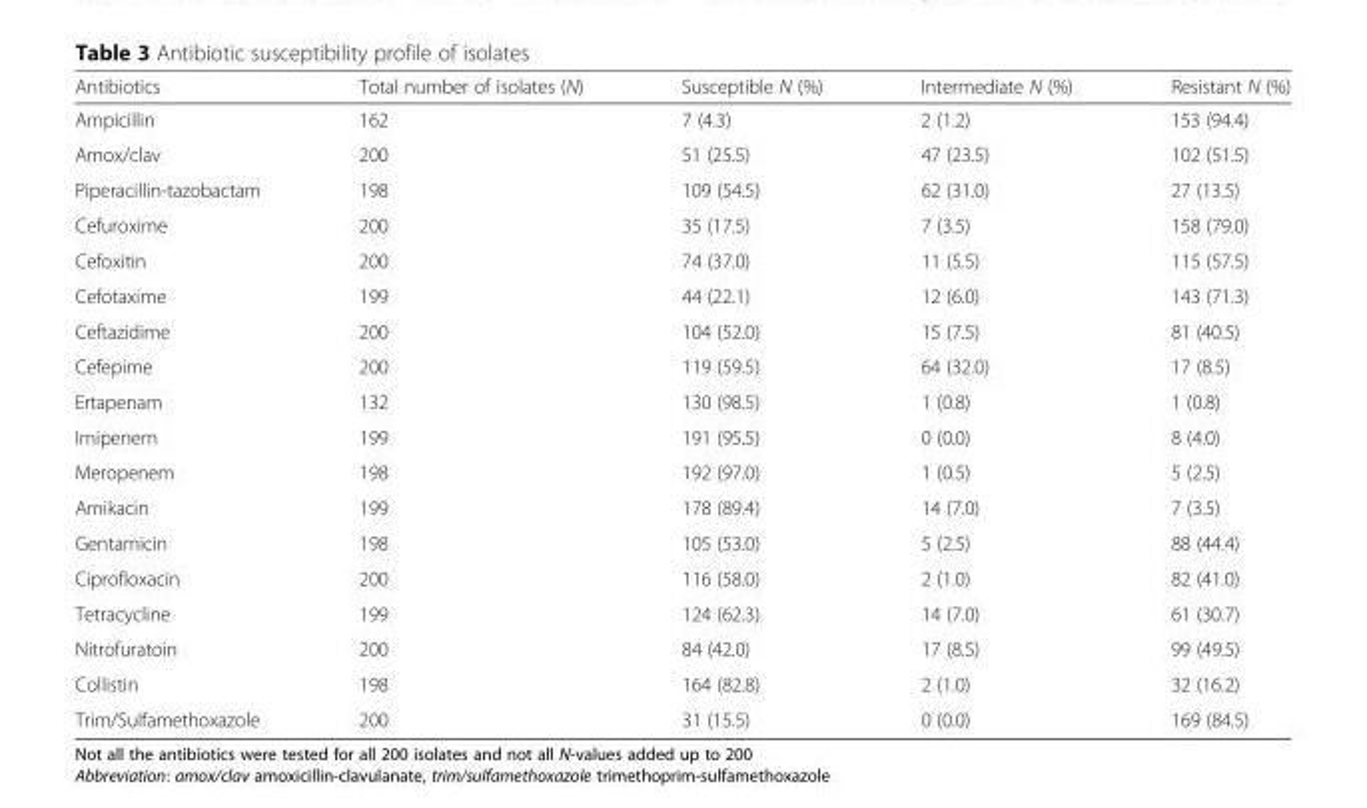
<table><thead><tr><td>Antibiotics</td><td>Total number of isolates (N)</td><td>Susceptible N (%)</td><td>Intermediate N (%)</td><td>Resistant N (%)</td></tr></thead><tbody><tr><td>Ampicillin</td><td>162</td><td>7 (4.3)</td><td>2 (1.2)</td><td>153 (94.4)</td></tr><tr><td>Amox/clav</td><td>200</td><td>51 (25.5)</td><td>47 (23.5)</td><td>102 (51.5)</td></tr><tr><td>Piperacillin-tazobactam</td><td>198</td><td>109 (54.5)</td><td>62 (31.0)</td><td>27 (13.5)</td></tr><tr><td>Cefuroxime</td><td>200</td><td>35 (17.5)</td><td>7 (3.5)</td><td>158 (79.0)</td></tr><tr><td>Cefoxitin</td><td>200</td><td>74 (37.0)</td><td>11 (5.5)</td><td>115 (57.5)</td></tr><tr><td>Cefotaxime</td><td>199</td><td>44 (22.1)</td><td>12 (6.0)</td><td>143 (71.3)</td></tr><tr><td>Ceftazidime</td><td>200</td><td>104 (52.0)</td><td>15 (7.5)</td><td>81 (40.5)</td></tr><tr><td>Cefepime</td><td>200</td><td>119 (59.5)</td><td>64 (32.0)</td><td>17 (8.5)</td></tr><tr><td>Ertapenam</td><td>132</td><td>130 (98.5)</td><td>1 (0.8)</td><td>1 (0.8)</td></tr><tr><td>Imipenem</td><td>199</td><td>191 (95.5)</td><td>0 (0.0)</td><td>8 (4.0)</td></tr><tr><td>Meropenem</td><td>198</td><td>192 (97.0)</td><td>1 (0.5)</td><td>5 (2.5)</td></tr><tr><td>Amikacin</td><td>199</td><td>178 (89.4)</td><td>14 (7.0)</td><td>7 (3.5)</td></tr><tr><td>Gentamicin</td><td>198</td><td>105 (53.0)</td><td>5 (2.5)</td><td>88 (44.4)</td></tr><tr><td>Ciprofloxacin</td><td>200</td><td>116 (58.0)</td><td>2 (1.0)</td><td>82 (41.0)</td></tr><tr><td>Tetracycline</td><td>199</td><td>124 (62.3)</td><td>14 (7.0)</td><td>61 (30.7)</td></tr><tr><td>Nitrofuratoin</td><td>200</td><td>84 (42.0)</td><td>17 (8.5)</td><td>99 (49.5)</td></tr><tr><td>Collistin</td><td>198</td><td>164 (82.8)</td><td>2 (1.0)</td><td>32 (16.2)</td></tr><tr><td>Trim/Sulfamethoxazole</td><td>200</td><td>31 (15.5)</td><td>0 (0.0)</td><td>169 (84.5)</td></tr></tbody></table>